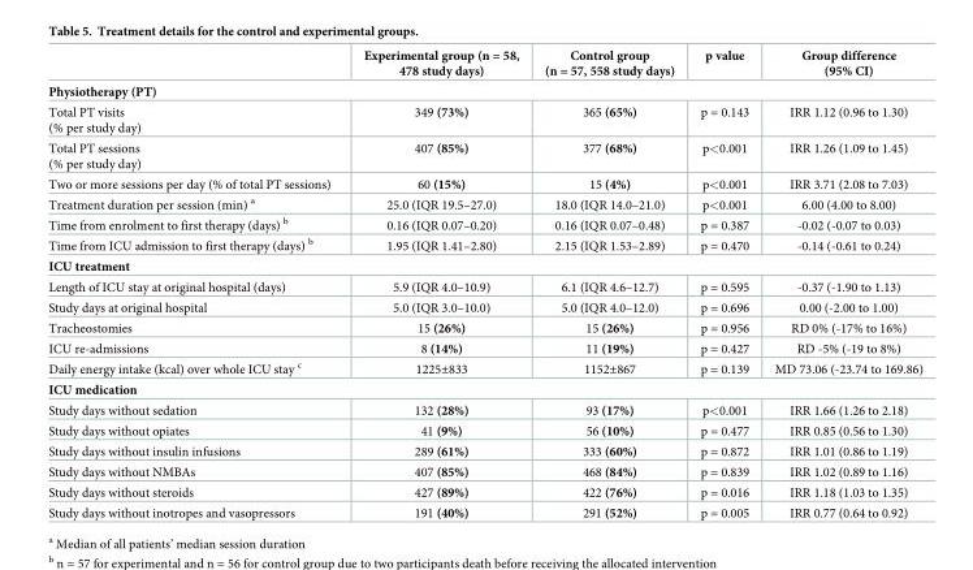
<table><thead><tr><td></td><td>Experimental group (n = 58, 478 study days)</td><td>Control group (n = 57, 558 study days)</td><td>p value</td><td>Group difference (95% CI)</td></tr></thead><tbody><tr><td colspan="5">Physiotherapy (PT)</td></tr><tr><td>Total PT visits (% per study day)</td><td>349 (73%)</td><td>365 (65%)</td><td>p = 0.143</td><td>IRR 1.12 (0.96 to 1.30)</td></tr><tr><td>Total PT sessions (% per study day)</td><td>407 (85%)</td><td>377 (68%)</td><td>p&lt;0.001</td><td>IRR 1.26 (1.09 to 1.45)</td></tr><tr><td>Two or more sessions per day (% of total PT sessions)</td><td>60 (15%)</td><td>15 (4%)</td><td>p&lt;0.001</td><td>IRR 3.71 (2.08 to 7.03)</td></tr><tr><td>Treatment duration per session (min) <sup>a</sup></td><td>25.0 (IQR 19.5–27.0)</td><td>18.0 (IQR 14.0–21.0)</td><td>p&lt;0.001</td><td>6.00 (4.00 to 8.00)</td></tr><tr><td>Time from enrolment to first therapy (days) <sup>b</sup></td><td>0.16 (IQR 0.07–0.20)</td><td>0.16 (IQR 0.07–0.48)</td><td>p = 0.387</td><td>-0.02 (-0.07 to 0.03)</td></tr><tr><td>Time from ICU admission to first therapy (days) <sup>b</sup></td><td>1.95 (IQR 1.41–2.80)</td><td>2.15 (IQR 1.53–2.89)</td><td>p = 0.470</td><td>-0.14 (-0.61 to 0.24)</td></tr><tr><td colspan="5">ICU treatment</td></tr><tr><td>Length of ICU stay at original hospital (days)</td><td>5.9 (IQR 4.0–10.9)</td><td>6.1 (IQR 4.6–12.7)</td><td>p = 0.595</td><td>-0.37 (-1.90 to 1.13)</td></tr><tr><td>Study days at original hospital</td><td>5.0 (IQR 3.0–10.0)</td><td>5.0 (IQR 4.0–12.0)</td><td>p = 0.696</td><td>0.00 (-2.00 to 1.00)</td></tr><tr><td>Tracheostomies</td><td>15 (26%)</td><td>15 (26%)</td><td>p = 0.956</td><td>RD 0% (-17% to 16%)</td></tr><tr><td>ICU re-admissions</td><td>8 (14%)</td><td>11 (19%)</td><td>p = 0.427</td><td>RD -5% (-19 to 8%)</td></tr><tr><td>Daily energy intake (kcal) over whole ICU stay <sup>c</sup></td><td>1225±833</td><td>1152±867</td><td>p = 0.139</td><td>MD 73.06 (-23.74 to 169.86)</td></tr><tr><td colspan="5">ICU medication</td></tr><tr><td>Study days without sedation</td><td>132 (28%)</td><td>93 (17%)</td><td>p&lt;0.001</td><td>IRR 1.66 (1.26 to 2.18)</td></tr><tr><td>Study days without opiates</td><td>41 (9%)</td><td>56 (10%)</td><td>p = 0.477</td><td>IRR 0.85 (0.56 to 1.30)</td></tr><tr><td>Study days without insulin infusions</td><td>289 (61%)</td><td>333 (60%)</td><td>p = 0.872</td><td>IRR 1.01 (0.86 to 1.19)</td></tr><tr><td>Study days without NMBAs</td><td>407 (85%)</td><td>468 (84%)</td><td>p = 0.839</td><td>IRR 1.02 (0.89 to 1.16)</td></tr><tr><td>Study days without steroids</td><td>427 (89%)</td><td>422 (76%)</td><td>p = 0.016</td><td>IRR 1.18 (1.03 to 1.35)</td></tr><tr><td>Study days without inotropes and vasopressors</td><td>191 (40%)</td><td>291 (52%)</td><td>p = 0.005</td><td>IRR 0.77 (0.64 to 0.92)</td></tr></tbody></table>